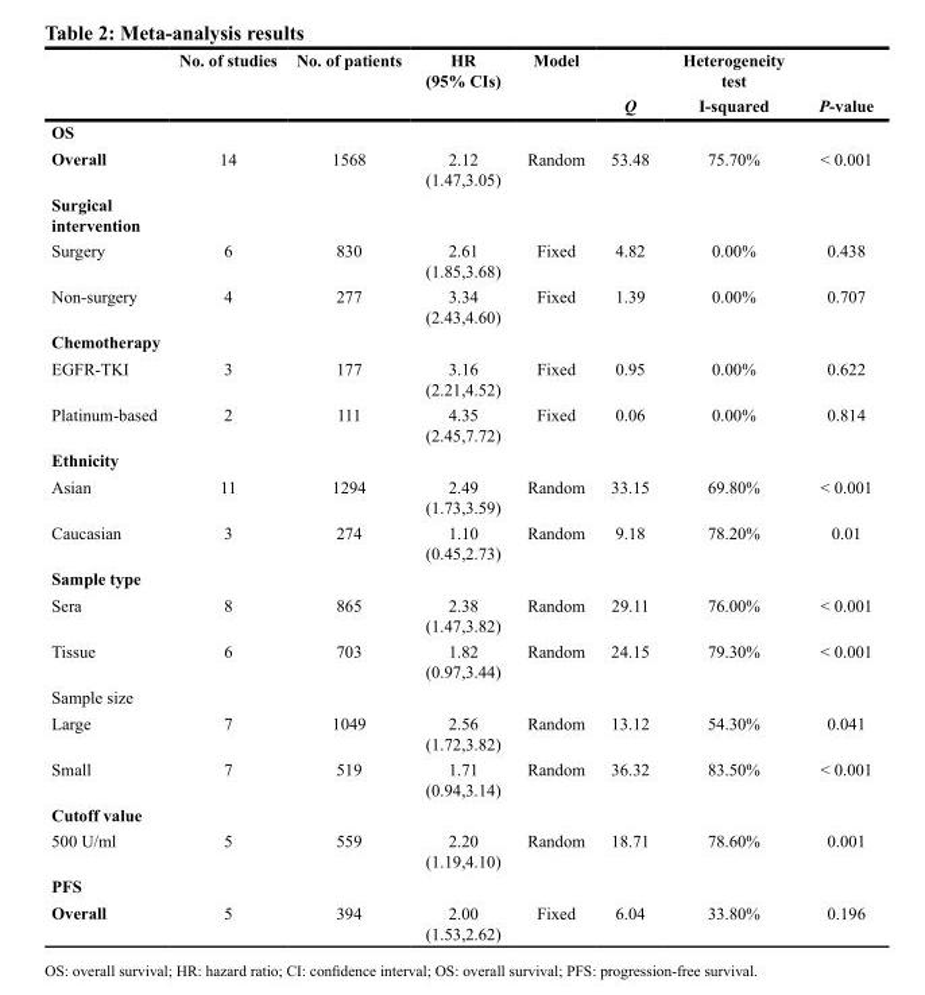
<table><thead><tr><td rowspan="2"></td><td rowspan="2">No. of studies</td><td rowspan="2">No. of patients</td><td rowspan="2">HR (95% CIs)</td><td rowspan="2">Model</td><td colspan="3">Heterogeneity test</td></tr><tr><td>Q</td><td>I-squared</td><td>P-value</td></tr></thead><tbody><tr><td colspan="8">OS</td></tr><tr><td>Overall</td><td>14</td><td>1568</td><td>2.12 (1.47,3.05)</td><td>Random</td><td>53.48</td><td>75.70%</td><td>&lt; 0.001</td></tr><tr><td colspan="8">Surgical intervention</td></tr><tr><td>Surgery</td><td>6</td><td>830</td><td>2.61 (1.85,3.68)</td><td>Fixed</td><td>4.82</td><td>0.00%</td><td>0.438</td></tr><tr><td>Non-surgery</td><td>4</td><td>277</td><td>3.34 (2.43,4.60)</td><td>Fixed</td><td>1.39</td><td>0.00%</td><td>0.707</td></tr><tr><td colspan="8">Chemotherapy</td></tr><tr><td>EGFR-TKI</td><td>3</td><td>177</td><td>3.16 (2.21,4.52)</td><td>Fixed</td><td>0.95</td><td>0.00%</td><td>0.622</td></tr><tr><td>Platinum-based</td><td>2</td><td>111</td><td>4.35 (2.45,7.72)</td><td>Fixed</td><td>0.06</td><td>0.00%</td><td>0.814</td></tr><tr><td colspan="8">Ethnicity</td></tr><tr><td>Asian</td><td>11</td><td>1294</td><td>2.49 (1.73,3.59)</td><td>Random</td><td>33.15</td><td>69.80%</td><td>&lt; 0.001</td></tr><tr><td>Caucasian</td><td>3</td><td>274</td><td>1.10 (0.45,2.73)</td><td>Random</td><td>9.18</td><td>78.20%</td><td>0.01</td></tr><tr><td colspan="8">Sample type</td></tr><tr><td>Sera</td><td>8</td><td>865</td><td>2.38 (1.47,3.82)</td><td>Random</td><td>29.11</td><td>76.00%</td><td>&lt; 0.001</td></tr><tr><td>Tissue</td><td>6</td><td>703</td><td>1.82 (0.97,3.44)</td><td>Random</td><td>24.15</td><td>79.30%</td><td>&lt; 0.001</td></tr><tr><td colspan="8">Sample size</td></tr><tr><td>Large</td><td>7</td><td>1049</td><td>2.56 (1.72,3.82)</td><td>Random</td><td>13.12</td><td>54.30%</td><td>0.041</td></tr><tr><td>Small</td><td>7</td><td>519</td><td>1.71 (0.94,3.14)</td><td>Random</td><td>36.32</td><td>83.50%</td><td>&lt; 0.001</td></tr><tr><td colspan="8">Cutoff value</td></tr><tr><td>500 U/ml</td><td>5</td><td>559</td><td>2.20 (1.19,4.10)</td><td>Random</td><td>18.71</td><td>78.60%</td><td>0.001</td></tr><tr><td colspan="8">PFS</td></tr><tr><td>Overall</td><td>5</td><td>394</td><td>2.00 (1.53,2.62)</td><td>Fixed</td><td>6.04</td><td>33.80%</td><td>0.196</td></tr></tbody></table>